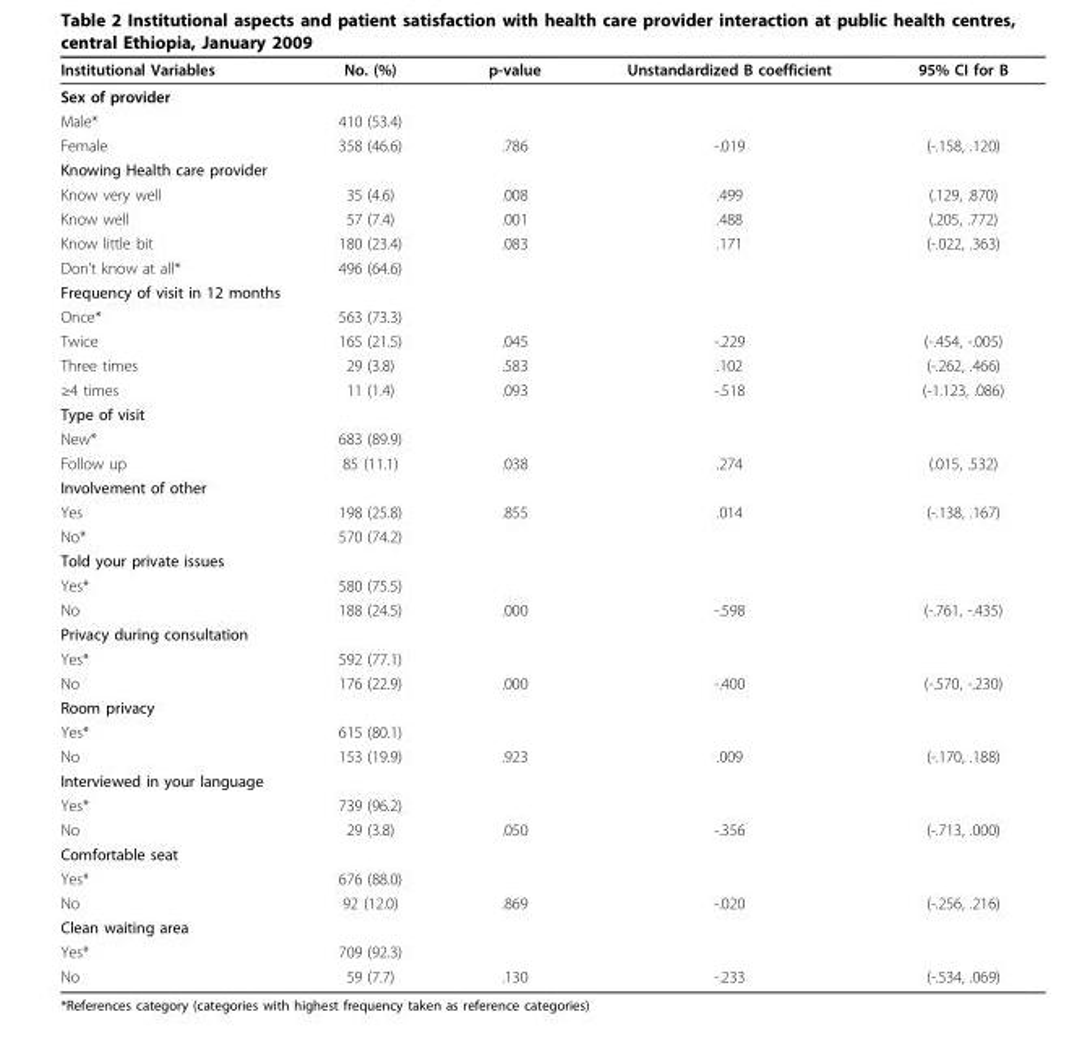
<table><thead><tr><td>Institutional Variables</td><td>No. (%)</td><td>p-value</td><td>Unstandardized B coefficient</td><td>95% CI for B</td></tr></thead><tbody><tr><td colspan="5">Sex of provider</td></tr><tr><td>Male*</td><td>410 (53.4)</td><td></td><td></td><td></td></tr><tr><td>Female</td><td>358 (46.6)</td><td>.786</td><td>-.019</td><td>(-.158, .120)</td></tr><tr><td colspan="5">Knowing Health care provider</td></tr><tr><td>Know very well</td><td>35 (4.6)</td><td>.008</td><td>.499</td><td>(.129, .870)</td></tr><tr><td>Know well</td><td>57 (7.4)</td><td>.001</td><td>.488</td><td>(.205, .772)</td></tr><tr><td>Know little bit</td><td>180 (23.4)</td><td>.083</td><td>.171</td><td>(-.022, .363)</td></tr><tr><td>Don’t know at all*</td><td>496 (64.6)</td><td></td><td></td><td></td></tr><tr><td colspan="5">Frequency of visit in 12 months</td></tr><tr><td>Once*</td><td>563 (73.3)</td><td></td><td></td><td></td></tr><tr><td>Twice</td><td>165 (21.5)</td><td>.045</td><td>-.229</td><td>(-.454, -.005)</td></tr><tr><td>Three times</td><td>29 (3.8)</td><td>.583</td><td>.102</td><td>(-.262, .466)</td></tr><tr><td>≥4 times</td><td>11 (1.4)</td><td>.093</td><td>-.518</td><td>(-1.123, .086)</td></tr><tr><td colspan="5">Type of visit</td></tr><tr><td>New*</td><td>683 (89.9)</td><td></td><td></td><td></td></tr><tr><td>Follow up</td><td>85 (11.1)</td><td>.038</td><td>.274</td><td>(.015, .532)</td></tr><tr><td colspan="5">Involvement of other</td></tr><tr><td>Yes</td><td>198 (25.8)</td><td>.855</td><td>.014</td><td>(-.138, .167)</td></tr><tr><td>No*</td><td>570 (74.2)</td><td></td><td></td><td></td></tr><tr><td colspan="5">Told your private issues</td></tr><tr><td>Yes*</td><td>580 (75.5)</td><td></td><td></td><td></td></tr><tr><td>No</td><td>188 (24.5)</td><td>.000</td><td>-.598</td><td>(-.761, -.435)</td></tr><tr><td colspan="5">Privacy during consultation</td></tr><tr><td>Yes*</td><td>592 (77.1)</td><td></td><td></td><td></td></tr><tr><td>No</td><td>176 (22.9)</td><td>.000</td><td>-.400</td><td>(-.570, -.230)</td></tr><tr><td colspan="5">Room privacy</td></tr><tr><td>Yes*</td><td>615 (80.1)</td><td></td><td></td><td></td></tr><tr><td>No</td><td>153 (19.9)</td><td>.923</td><td>.009</td><td>(-.170, .188)</td></tr><tr><td colspan="5">Interviewed in your language</td></tr><tr><td>Yes*</td><td>739 (96.2)</td><td></td><td></td><td></td></tr><tr><td>No</td><td>29 (3.8)</td><td>.050</td><td>-.356</td><td>(-.713, .000)</td></tr><tr><td colspan="5">Comfortable seat</td></tr><tr><td>Yes*</td><td>676 (88.0)</td><td></td><td></td><td></td></tr><tr><td>No</td><td>92 (12.0)</td><td>.869</td><td>-.020</td><td>(-.256, .216)</td></tr><tr><td colspan="5">Clean waiting area</td></tr><tr><td>Yes*</td><td>709 (92.3)</td><td></td><td></td><td></td></tr><tr><td>No</td><td>59 (7.7)</td><td>.130</td><td>-.233</td><td>(-.534, .069)</td></tr></tbody></table>